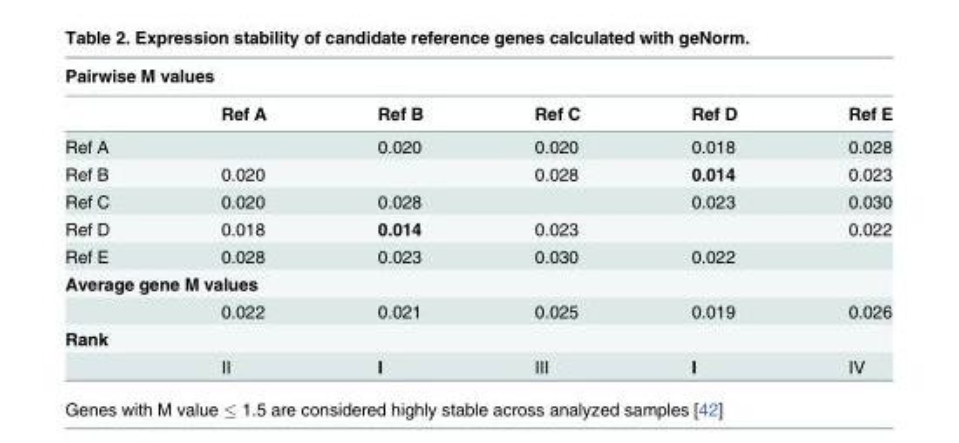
<table><thead><tr><td colspan="6">Pairwise M values</td></tr><tr><td></td><td>Ref A</td><td>Ref B</td><td>Ref C</td><td>Ref D</td><td>Ref E</td></tr></thead><tbody><tr><td>Ref A</td><td></td><td>0.020</td><td>0.020</td><td>0.018</td><td>0.028</td></tr><tr><td>Ref B</td><td>0.020</td><td></td><td>0.028</td><td>0.014</td><td>0.023</td></tr><tr><td>Ref C</td><td>0.020</td><td>0.028</td><td></td><td>0.023</td><td>0.030</td></tr><tr><td>Ref D</td><td>0.018</td><td>0.014</td><td>0.023</td><td></td><td>0.022</td></tr><tr><td>Ref E</td><td>0.028</td><td>0.023</td><td>0.030</td><td>0.022</td><td></td></tr><tr><td colspan="6">Average gene M values</td></tr><tr><td></td><td>0.022</td><td>0.021</td><td>0.025</td><td>0.019</td><td>0.026</td></tr><tr><td colspan="6">Rank</td></tr><tr><td></td><td>II</td><td>I</td><td>III</td><td>I</td><td>IV</td></tr></tbody></table>